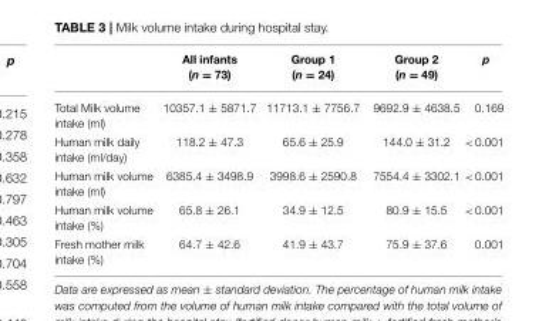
<table><thead><tr><td></td><td>All infants (n = 73)</td><td>Group 1 (n = 24)</td><td>Group 2 (n = 49)</td><td>p</td></tr></thead><tbody><tr><td>Total Milk volume intake (ml)</td><td>10357.1 ± 5871.7</td><td>11713.1 ± 7756.7</td><td>9692.9 ± 4638.5</td><td>0.169</td></tr><tr><td>Human milk daily intake (ml/day)</td><td>118.2 ± 47.3</td><td>65.6 ± 25.9</td><td>144.0 ± 31.2</td><td>&lt;0.001</td></tr><tr><td>Human milk volume intake (ml)</td><td>6385.4 ± 3498.9</td><td>3998.6 ± 2590.8</td><td>7554.4 ± 3302.1</td><td>&lt;0.001</td></tr><tr><td>Human milk volume intake (%)</td><td>65.8 ± 26.1</td><td>34.9 ± 12.5</td><td>80.9 ± 15.5</td><td>&lt;0.001</td></tr><tr><td>Fresh mother milk intake (%)</td><td>64.7 ± 42.6</td><td>41.9 ± 43.7</td><td>75.9 ± 37.6</td><td>0.001</td></tr></tbody></table>